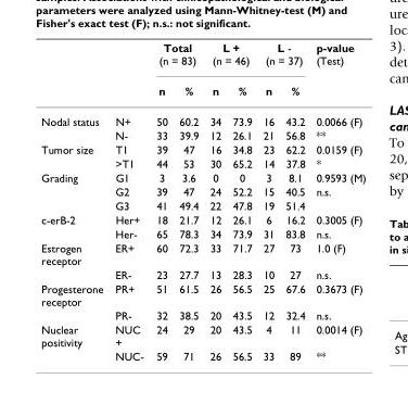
<table><thead><tr><td rowspan="2"></td><td rowspan="2"></td><td colspan="2">Total (n = 83)</td><td colspan="2">L + (n = 46)</td><td colspan="2">L - (n = 37)</td><td rowspan="2">p-value (Test)</td></tr><tr><td>n</td><td>%</td><td>n</td><td>%</td><td>n</td><td>%</td></tr></thead><tbody><tr><td rowspan="2">Nodal status</td><td>N+</td><td>50</td><td>60.2</td><td>34</td><td>73.9</td><td>16</td><td>43.2</td><td>0.0066 (F)</td></tr><tr><td>N-</td><td>33</td><td>39.9</td><td>12</td><td>26.1</td><td>21</td><td>56.8</td><td>**</td></tr><tr><td rowspan="2">Tumor size</td><td>T1</td><td>39</td><td>47</td><td>16</td><td>34.8</td><td>23</td><td>62.2</td><td>0.0159 (F)</td></tr><tr><td>&gt;T1</td><td>44</td><td>53</td><td>30</td><td>65.2</td><td>14</td><td>37.8</td><td>*</td></tr><tr><td rowspan="3">Grading</td><td>G1</td><td>3</td><td>3.6</td><td>0</td><td>0</td><td>3</td><td>8.1</td><td>0.9593 (M)</td></tr><tr><td>G2</td><td>39</td><td>47</td><td>24</td><td>52.2</td><td>15</td><td>40.5</td><td>n.s.</td></tr><tr><td>G3</td><td>41</td><td>49.4</td><td>22</td><td>47.8</td><td>19</td><td>51.4</td><td></td></tr><tr><td rowspan="2">c-erB-2</td><td>Her+</td><td>18</td><td>21.7</td><td>12</td><td>26.1</td><td>6</td><td>16.2</td><td>0.3005 (F)</td></tr><tr><td>Her-</td><td>65</td><td>78.3</td><td>34</td><td>73.9</td><td>31</td><td>83.8</td><td>n.s.</td></tr><tr><td rowspan="2">Estrogen receptor</td><td>ER+</td><td>60</td><td>72.3</td><td>33</td><td>71.7</td><td>27</td><td>73</td><td>1.0 (F)</td></tr><tr><td>ER-</td><td>23</td><td>27.7</td><td>13</td><td>28.3</td><td>10</td><td>27</td><td>n.s.</td></tr><tr><td rowspan="2">Progesterone receptor</td><td>PR+</td><td>51</td><td>61.5</td><td>26</td><td>56.5</td><td>25</td><td>67.6</td><td>0.3673 (F)</td></tr><tr><td>PR-</td><td>32</td><td>38.5</td><td>20</td><td>43.5</td><td>12</td><td>32.4</td><td>n.s.</td></tr><tr><td rowspan="2">Nuclear positivity</td><td>NUC +</td><td>24</td><td>29</td><td>20</td><td>43.5</td><td>4</td><td>11</td><td>0.0014 (F)</td></tr><tr><td>NUC-</td><td>59</td><td>71</td><td>26</td><td>56.5</td><td>33</td><td>89</td><td>**</td></tr></tbody></table>